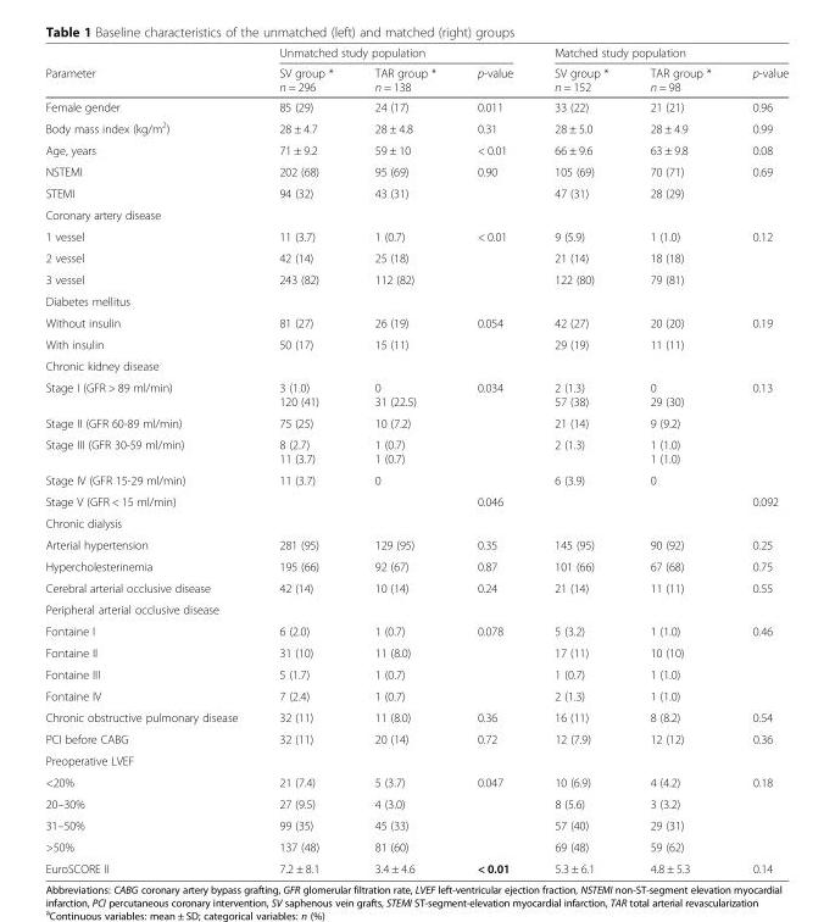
<table><thead><tr><td rowspan="2">Parameter</td><td colspan="3">Unmatched study population</td><td colspan="3">Matched study population</td></tr><tr><td>SV group * n = 296</td><td>TAR group * n = 138</td><td>p-value</td><td>SV group * n = 152</td><td>TAR group * n = 98</td><td>p-value</td></tr></thead><tbody><tr><td>Female gender</td><td>85 (29)</td><td>24 (17)</td><td>0.011</td><td>33 (22)</td><td>21 (21)</td><td>0.96</td></tr><tr><td>Body mass index (kg/m<sup>2</sup>)</td><td>28 ± 4.7</td><td>28 ± 4.8</td><td>0.31</td><td>28 ± 5.0</td><td>28 ± 4.9</td><td>0.99</td></tr><tr><td>Age, years</td><td>71 ± 9.2</td><td>59 ± 10</td><td>&lt; 0.01</td><td>66 ± 9.6</td><td>63 ± 9.8</td><td>0.08</td></tr><tr><td>NSTEMI</td><td>202 (68)</td><td>95 (69)</td><td>0.90</td><td>105 (69)</td><td>70 (71)</td><td>0.69</td></tr><tr><td>STEMI</td><td>94 (32)</td><td>43 (31)</td><td></td><td>47 (31)</td><td>28 (29)</td><td></td></tr><tr><td colspan="7">Coronary artery disease</td></tr><tr><td>1 vessel</td><td>11 (3.7)</td><td>1 (0.7)</td><td rowspan="3">&lt; 0.01</td><td>9 (5.9)</td><td>1 (1.0)</td><td rowspan="3">0.12</td></tr><tr><td>2 vessel</td><td>42 (14)</td><td>25 (18)</td><td>21 (14)</td><td>18 (18)</td></tr><tr><td>3 vessel</td><td>243 (82)</td><td>112 (82)</td><td>122 (80)</td><td>79 (81)</td></tr><tr><td colspan="7">Diabetes mellitus</td></tr><tr><td>Without insulin</td><td>81 (27)</td><td>26 (19)</td><td rowspan="2">0.054</td><td>42 (27)</td><td>20 (20)</td><td rowspan="2">0.19</td></tr><tr><td>With insulin</td><td>50 (17)</td><td>15 (11)</td><td>29 (19)</td><td>11 (11)</td></tr><tr><td colspan="7">Chronic kidney disease</td></tr><tr><td>Stage I (GFR &gt; 89 ml/min)</td><td>3 (1.0) 120 (41)</td><td>0 31 (22.5)</td><td rowspan="4">0.034</td><td>2 (1.3) 57 (38)</td><td>0 29 (30)</td><td rowspan="4">0.13</td></tr><tr><td>Stage II (GFR 60-89 ml/min)</td><td>75 (25)</td><td>10 (7.2)</td><td>21 (14)</td><td>9 (9.2)</td></tr><tr><td>Stage III (GFR 30-59 ml/min)</td><td>8 (2.7) 11 (3.7)</td><td>1 (0.7) 1 (0.7)</td><td>2 (1.3)</td><td>1 (1.0) 1 (1.0)</td></tr><tr><td>Stage IV (GFR 15-29 ml/min)</td><td>11 (3.7)</td><td>0</td><td>6 (3.9)</td><td>0</td></tr><tr><td>Stage V (GFR &lt; 15 ml/min)</td><td></td><td></td><td>0.046</td><td></td><td></td><td>0.092</td></tr><tr><td colspan="7">Chronic dialysis</td></tr><tr><td>Arterial hypertension</td><td>281 (95)</td><td>129 (95)</td><td>0.35</td><td>145 (95)</td><td>90 (92)</td><td>0.25</td></tr><tr><td>Hypercholesterinemia</td><td>195 (66)</td><td>92 (67)</td><td>0.87</td><td>101 (66)</td><td>67 (68)</td><td>0.75</td></tr><tr><td>Cerebral arterial occlusive disease</td><td>42 (14)</td><td>10 (14)</td><td>0.24</td><td>21 (14)</td><td>11 (11)</td><td>0.55</td></tr><tr><td colspan="7">Peripheral arterial occlusive disease</td></tr><tr><td>Fontaine I</td><td>6 (2.0)</td><td>1 (0.7)</td><td rowspan="4">0.078</td><td>5 (3.2)</td><td>1 (1.0)</td><td rowspan="4">0.46</td></tr><tr><td>Fontaine II</td><td>31 (10)</td><td>11 (8.0)</td><td>17 (11)</td><td>10 (10)</td></tr><tr><td>Fontaine III</td><td>5 (1.7)</td><td>1 (0.7)</td><td>1 (0.7)</td><td>1 (1.0)</td></tr><tr><td>Fontaine IV</td><td>7 (2.4)</td><td>1 (0.7)</td><td>2 (1.3)</td><td>1 (1.0)</td></tr><tr><td>Chronic obstructive pulmonary disease</td><td>32 (11)</td><td>11 (8.0)</td><td>0.36</td><td>16 (11)</td><td>8 (8.2)</td><td>0.54</td></tr><tr><td>PCI before CABG</td><td>32 (11)</td><td>20 (14)</td><td>0.72</td><td>12 (7.9)</td><td>12 (12)</td><td>0.36</td></tr><tr><td colspan="7">Preoperative LVEF</td></tr><tr><td>&lt;20%</td><td>21 (7.4)</td><td>5 (3.7)</td><td rowspan="4">0.047</td><td>10 (6.9)</td><td>4 (4.2)</td><td rowspan="4">0.18</td></tr><tr><td>20–30%</td><td>27 (9.5)</td><td>4 (3.0)</td><td>8 (5.6)</td><td>3 (3.2)</td></tr><tr><td>31–50%</td><td>99 (35)</td><td>45 (33)</td><td>57 (40)</td><td>29 (31)</td></tr><tr><td>&gt;50%</td><td>137 (48)</td><td>81 (60)</td><td>69 (48)</td><td>59 (62)</td></tr><tr><td>EuroSCORE II</td><td>7.2 ± 8.1</td><td>3.4 ± 4.6</td><td>&lt; 0.01</td><td>5.3 ± 6.1</td><td>4.8 ± 5.3</td><td>0.14</td></tr></tbody></table>